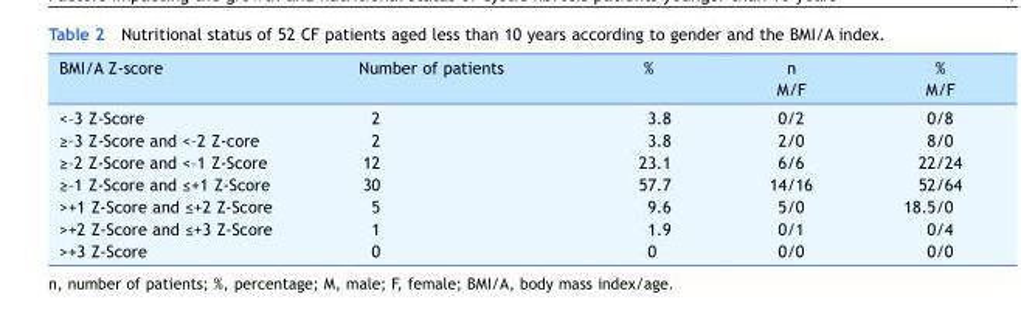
<table><thead><tr><td>BMI/A Z-score</td><td>Number of patients</td><td>%</td><td>n M/F</td><td>% M/F</td></tr></thead><tbody><tr><td>&lt;–3 Z-Score</td><td>2</td><td>3.8</td><td>0/2</td><td>0/8</td></tr><tr><td>≥–3 Z-Score and &lt;–2 Z-core</td><td>2</td><td>3.8</td><td>2/0</td><td>8/0</td></tr><tr><td>≥–2 Z-Score and &lt;–1 Z-Score</td><td>12</td><td>23.1</td><td>6/6</td><td>22/24</td></tr><tr><td>≥–1 Z-Score and ≤+1 Z-Score</td><td>30</td><td>57.7</td><td>14/16</td><td>52/64</td></tr><tr><td>&gt;+1 Z-Score and ≤+2 Z-Score</td><td>5</td><td>9.6</td><td>5/0</td><td>18.5/0</td></tr><tr><td>&gt;+2 Z-Score and ≤+3 Z-Score</td><td>1</td><td>1.9</td><td>0/1</td><td>0/4</td></tr><tr><td>&gt;+3 Z-Score</td><td>0</td><td>0.</td><td>0/0</td><td>0/0</td></tr></tbody></table>